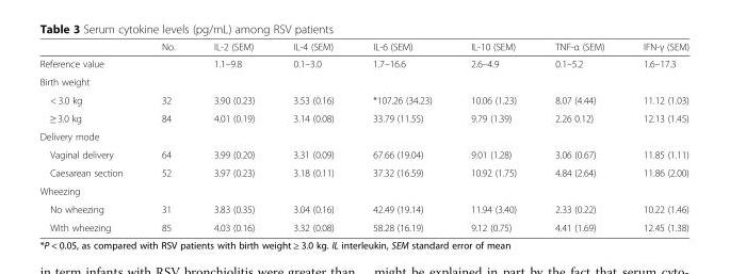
<table><thead><tr><td></td><td>No.</td><td>IL-2 (SEM)</td><td>IL-4 (SEM)</td><td>IL-6 (SEM)</td><td>IL-10 (SEM)</td><td>TNF-α (SEM)</td><td>IFN-γ (SEM)</td></tr></thead><tbody><tr><td>Reference value</td><td></td><td>1.1–9.8</td><td>0.1–3.0</td><td>1.7–16.6</td><td>2.6–4.9</td><td>0.1–5.2</td><td>1.6–17.3</td></tr><tr><td colspan="8">Birth weight</td></tr><tr><td>&lt; 3.0 kg</td><td>32</td><td>3.90 (0.23)</td><td>3.53 (0.16)</td><td>*107.26 (34.23)</td><td>10.06 (1.23)</td><td>8.07 (4.44)</td><td>11.12 (1.03)</td></tr><tr><td>≥ 3.0 kg</td><td>84</td><td>4.01 (0.19)</td><td>3.14 (0.08)</td><td>33.79 (11.55)</td><td>9.79 (1.39)</td><td>2.26 0.12)</td><td>12.13 (1.45)</td></tr><tr><td colspan="8">Delivery mode</td></tr><tr><td>Vaginal delivery</td><td>64</td><td>3.99 (0.20)</td><td>3.31 (0.09)</td><td>67.66 (19.04)</td><td>9.01 (1.28)</td><td>3.06 (0.67)</td><td>11.85 (1.11)</td></tr><tr><td>Caesarean section</td><td>52</td><td>3.97 (0.23)</td><td>3.18 (0.11)</td><td>37.32 (16.59)</td><td>10.92 (1.75)</td><td>4.84 (2.64)</td><td>11.86 (2.00)</td></tr><tr><td colspan="8">Wheezing</td></tr><tr><td>No wheezing</td><td>31</td><td>3.83 (0.35)</td><td>3.04 (0.16)</td><td>42.49 (19.14)</td><td>11.94 (3.40)</td><td>2.33 (0.22)</td><td>10.22 (1.46)</td></tr><tr><td>With wheezing</td><td>85</td><td>4.03 (0.16)</td><td>3.32 (0.08)</td><td>58.28 (16.19)</td><td>9.12 (0.75)</td><td>4.41 (1.69)</td><td>12.45 (1.38)</td></tr></tbody></table>